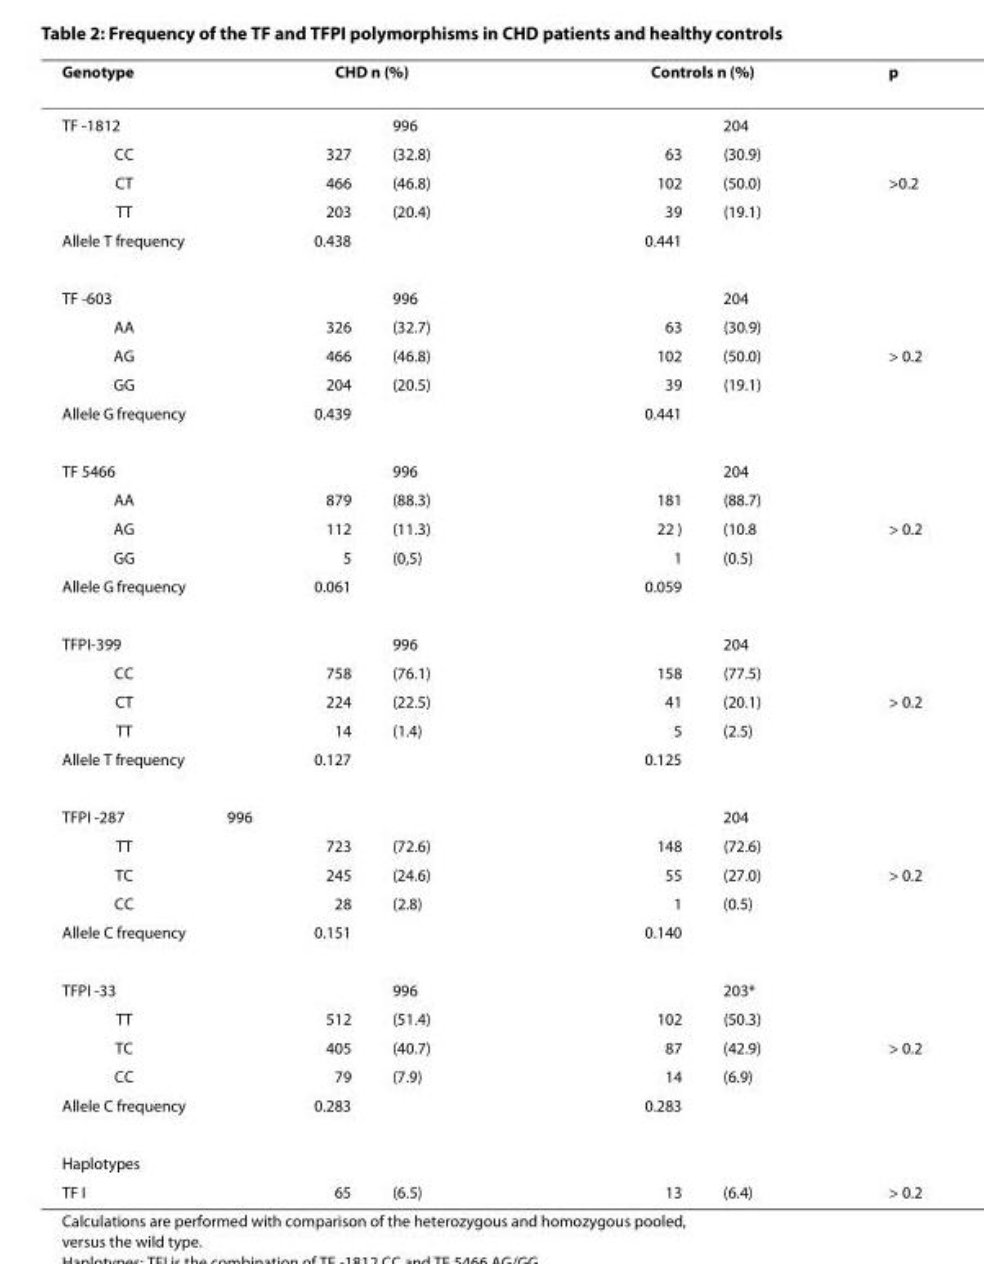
<table><thead><tr><td rowspan="2">Genotype TF -1812</td><td colspan="2">CHD n (%)</td><td colspan="2">Controls n (%)</td><td rowspan="2">p</td></tr><tr><td></td><td>996</td><td></td><td>204</td></tr></thead><tbody><tr><td>CC</td><td>327</td><td>(32.8)</td><td>63</td><td>(30.9)</td><td></td></tr><tr><td>CT</td><td>466</td><td>(46.8)</td><td>102</td><td>(50.0)</td><td>&gt;0.2</td></tr><tr><td>TT</td><td>203</td><td>(20.4)</td><td>39</td><td>(19.1)</td><td></td></tr><tr><td>Allele T frequency</td><td>0.438</td><td></td><td>0.441</td><td></td><td></td></tr><tr><td>TF -603</td><td></td><td>996</td><td></td><td>204</td><td></td></tr><tr><td>AA</td><td>326</td><td>(32.7)</td><td>63</td><td>(30.9)</td><td></td></tr><tr><td>AG</td><td>466</td><td>(46.8)</td><td>102</td><td>(50.0)</td><td>&gt; 0.2</td></tr><tr><td>GG</td><td>204</td><td>(20.5)</td><td>39</td><td>(19.1)</td><td></td></tr><tr><td>Allele G frequency</td><td>0.439</td><td></td><td>0.441</td><td></td><td></td></tr><tr><td>TF 5466</td><td></td><td>996</td><td></td><td>204</td><td></td></tr><tr><td>AA</td><td>879</td><td>(88.3)</td><td>181</td><td>(88.7)</td><td></td></tr><tr><td>AG</td><td>112</td><td>(11.3)</td><td>22 )</td><td>(10.8</td><td>&gt; 0.2</td></tr><tr><td>GG</td><td>5</td><td>(0,5)</td><td>1</td><td>(0.5)</td><td></td></tr><tr><td>Allele G frequency</td><td>0.061</td><td></td><td>0.059</td><td></td><td></td></tr><tr><td>TFPI-399</td><td></td><td>996</td><td></td><td>204</td><td></td></tr><tr><td>CC</td><td>758</td><td>(76.1)</td><td>158</td><td>(77.5)</td><td></td></tr><tr><td>CT</td><td>224</td><td>(22.5)</td><td>41</td><td>(20.1)</td><td>&gt; 0.2</td></tr><tr><td>TT</td><td>14</td><td>(1.4)</td><td>5</td><td>(2.5)</td><td></td></tr><tr><td>Allele T frequency</td><td>0.127</td><td></td><td>0.125</td><td></td><td></td></tr><tr><td>TFPI -287</td><td>996</td><td></td><td></td><td>204</td><td></td></tr><tr><td>TT</td><td>723</td><td>(72.6)</td><td>148</td><td>(72.6)</td><td></td></tr><tr><td>TC</td><td>245</td><td>(24.6)</td><td>55</td><td>(27.0)</td><td>&gt; 0.2</td></tr><tr><td>CC</td><td>28</td><td>(2.8)</td><td>1</td><td>(0.5)</td><td></td></tr><tr><td>Allele C frequency</td><td>0.151</td><td></td><td>0.140</td><td></td><td></td></tr><tr><td>TFPI -33</td><td></td><td>996</td><td></td><td>203*</td><td></td></tr><tr><td>TT</td><td>512</td><td>(51.4)</td><td>102</td><td>(50.3)</td><td></td></tr><tr><td>TC</td><td>405</td><td>(40.7)</td><td>87</td><td>(42.9)</td><td>&gt; 0.2</td></tr><tr><td>CC</td><td>79</td><td>(7.9)</td><td>14</td><td>(6.9)</td><td></td></tr><tr><td>Allele C frequency</td><td>0.283</td><td></td><td>0.283</td><td></td><td></td></tr><tr><td colspan="6">Haplotypes</td></tr><tr><td>TF I</td><td>65</td><td>(6.5)</td><td>13</td><td>(6.4)</td><td>&gt; 0.2</td></tr></tbody></table>